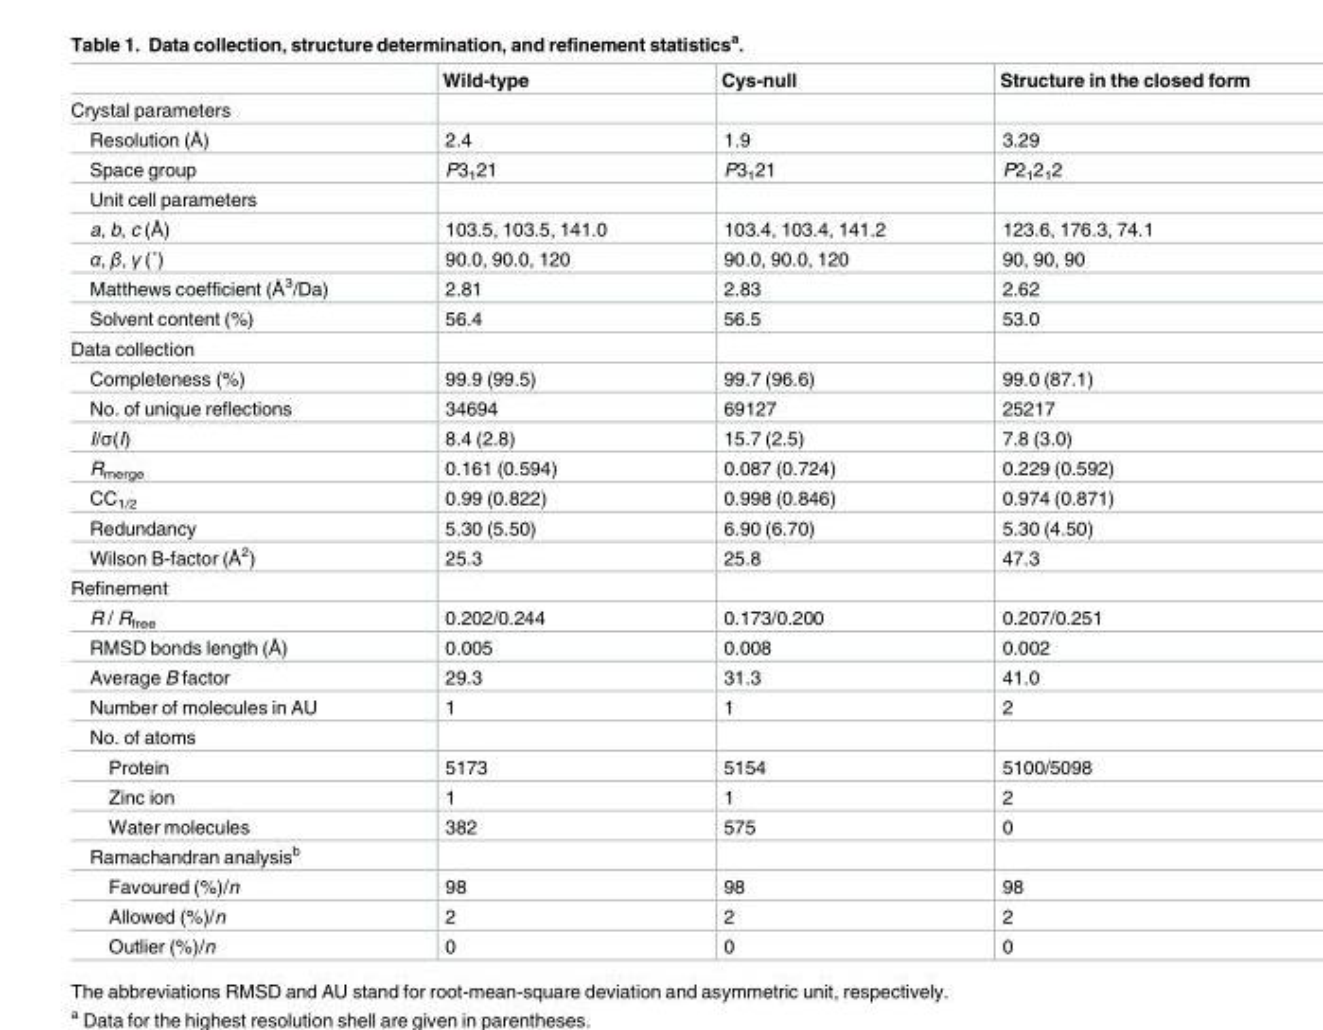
<table><thead><tr><td></td><td>Wild-type</td><td>Cys-null</td><td>Structure in the closed form</td></tr></thead><tbody><tr><td colspan="4">Crystal parameters</td></tr><tr><td>Resolution (Å)</td><td>2.4</td><td>1.9</td><td>3.29</td></tr><tr><td>Space group</td><td>P3<sub>1</sub>21</td><td>P3<sub>1</sub>21</td><td>P2<sub>1</sub>2<sub>1</sub>2</td></tr><tr><td colspan="4">Unit cell parameters</td></tr><tr><td>a, b, c (Å)</td><td>103.5, 103.5, 141.0</td><td>103.4, 103.4, 141.2</td><td>123.6, 176.3, 74.1</td></tr><tr><td>α, β, γ (˚)</td><td>90.0, 90.0, 120</td><td>90.0, 90.0, 120</td><td>90, 90, 90</td></tr><tr><td>Matthews coefficient (Å<sup>3</sup>/Da)</td><td>2.81</td><td>2.83</td><td>2.62</td></tr><tr><td>Solvent content (%)</td><td>56.4</td><td>56.5</td><td>53.0</td></tr><tr><td colspan="4">Data collection</td></tr><tr><td>Completeness (%)</td><td>99.9 (99.5)</td><td>99.7 (96.6)</td><td>99.0 (87.1)</td></tr><tr><td>No. of unique reflections</td><td>34694</td><td>69127</td><td>25217</td></tr><tr><td>I/σ(I)</td><td>8.4 (2.8)</td><td>15.7 (2.5)</td><td>7.8 (3.0)</td></tr><tr><td>R<sub>merge</sub></td><td>0.161 (0.594)</td><td>0.087 (0.724)</td><td>0.229 (0.592)</td></tr><tr><td>CC<sub>1/2</sub></td><td>0.99 (0.822)</td><td>0.998 (0.846)</td><td>0.974 (0.871)</td></tr><tr><td>Redundancy</td><td>5.30 (5.50)</td><td>6.90 (6.70)</td><td>5.30 (4.50)</td></tr><tr><td>Wilson B-factor (Å<sup>2</sup>)</td><td>25.3</td><td>25.8</td><td>47.3</td></tr><tr><td colspan="4">Refinement</td></tr><tr><td>R / R<sub>free</sub></td><td>0.202/0.244</td><td>0.173/0.200</td><td>0.207/0.251</td></tr><tr><td>RMSD bonds length (Å)</td><td>0.005</td><td>0.008</td><td>0.002</td></tr><tr><td>Average B factor</td><td>29.3</td><td>31.3</td><td>41.0</td></tr><tr><td>Number of molecules in AU</td><td>1</td><td>1</td><td>2</td></tr><tr><td colspan="4">No. of atoms</td></tr><tr><td>Protein</td><td>5173</td><td>5154</td><td>5100/5098</td></tr><tr><td>Zinc ion</td><td>1</td><td>1</td><td>2</td></tr><tr><td>Water molecules</td><td>382</td><td>575</td><td>0</td></tr><tr><td colspan="4">Ramachandran analysis<sup>b</sup></td></tr><tr><td>Favoured (%)/n</td><td>98</td><td>98</td><td>98</td></tr><tr><td>Allowed (%)/n</td><td>2</td><td>2</td><td>2</td></tr><tr><td>Outlier (%)/n</td><td>0</td><td>0</td><td>0</td></tr></tbody></table>